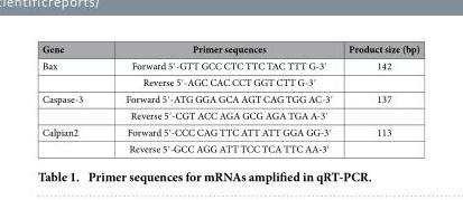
<table><thead><tr><td>Gene</td><td>Primer sequences</td><td>Product size (bp)</td></tr></thead><tbody><tr><td rowspan="2">Bax</td><td>Forward 5′-GTT GCC CTC TTC TAC TTT G-3′</td><td>142</td></tr><tr><td>Reverse 5′-AGC CAC CCT GGT CTT G-3′</td><td></td></tr><tr><td rowspan="2">Caspase-3</td><td>Forward 5′-ATG GGA GCA AGT CAG TGG AC-3′</td><td>137</td></tr><tr><td>Reverse 5′-CGT ACC AGA GCG AGA TGA A-3′</td><td></td></tr><tr><td rowspan="2">Calpian2</td><td>Forward 5′-CCC CAG TTC ATT ATT GGA GG-3′</td><td>113</td></tr><tr><td>Reverse 5′-GCC AGG ATT TCC TCA TTC AA-3′</td><td></td></tr></tbody></table>